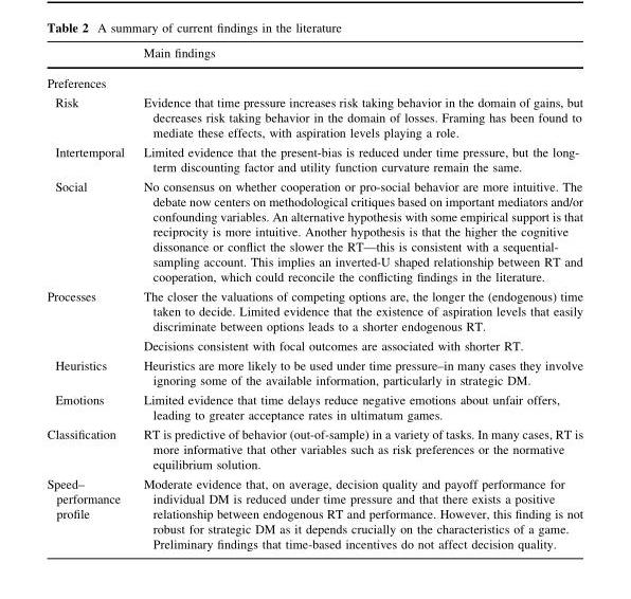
<table><thead><tr><td></td><td>Main findings</td></tr></thead><tbody><tr><td colspan="2">Preferences</td></tr><tr><td>Risk</td><td>Evidence that time pressure increases risk taking behavior in the domain of gains, but decreases risk taking behavior in the domain of losses. Framing has been found to mediate these effects, with aspiration levels playing a role.</td></tr><tr><td>Intertemporal</td><td>Limited evidence that the present-bias is reduced under time pressure, but the long- term discounting factor and utility function curvature remain the same.</td></tr><tr><td>Social</td><td>No consensus on whether cooperation or pro-social behavior are more intuitive. The debate now centers on methodological critiques based on important mediators and/or confounding variables. An alternative hypothesis with some empirical support is that reciprocity is more intuitive. Another hypothesis is that the higher the cognitive dissonance or conflict the slower the RT—this is consistent with a sequential- sampling account. This implies an inverted-U shaped relationship between RT and cooperation, which could reconcile the conflicting findings in the literature.</td></tr><tr><td rowspan="2">Processes</td><td>The closer the valuations of competing options are, the longer the (endogenous) time taken to decide. Limited evidence that the existence of aspiration levels that easily discriminate between options leads to a shorter endogenous RT.</td></tr><tr><td>Decisions consistent with focal outcomes are associated with shorter RT.</td></tr><tr><td>Heuristics</td><td>Heuristics are more likely to be used under time pressure–in many cases they involve ignoring some of the available information, particularly in strategic DM.</td></tr><tr><td>Emotions</td><td>Limited evidence that time delays reduce negative emotions about unfair offers, leading to greater acceptance rates in ultimatum games.</td></tr><tr><td>Classification</td><td>RT is predictive of behavior (out-of-sample) in a variety of tasks. In many cases, RT is more informative that other variables such as risk preferences or the normative equilibrium solution.</td></tr><tr><td>Speed– performance profile</td><td>Moderate evidence that, on average, decision quality and payoff performance for individual DM is reduced under time pressure and that there exists a positive relationship between endogenous RT and performance. However, this finding is not robust for strategic DM as it depends crucially on the characteristics of a game. Preliminary findings that time-based incentives do not affect decision quality.</td></tr></tbody></table>